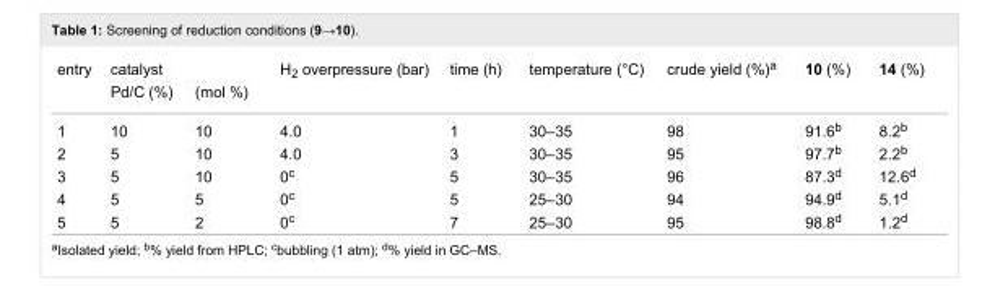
<table><tbody><tr><td rowspan="2">entry</td><td colspan="2">catalyst</td><td rowspan="2">H<sub>2</sub> overpressure (bar)</td><td rowspan="2">time (h)</td><td rowspan="2">temperature (°C)</td><td rowspan="2">crude yield (%)<sup>a</sup></td><td rowspan="2">10 (%)</td><td rowspan="2">14 (%)</td></tr><tr><td>Pd/C (%)</td><td>(mol %)</td></tr><tr><td>1</td><td>10</td><td>10</td><td>4.0</td><td>1</td><td>30–35</td><td>98</td><td>91.6<sup>b</sup></td><td>8.2<sup>b</sup></td></tr><tr><td>2</td><td>5</td><td>10</td><td>4.0</td><td>3</td><td>30–35</td><td>95</td><td>97.7<sup>b</sup></td><td>2.2<sup>b</sup></td></tr><tr><td>3</td><td>5</td><td>10</td><td>0<sup>c</sup></td><td>5</td><td>30–35</td><td>96</td><td>87.3<sup>d</sup></td><td>12.6<sup>d</sup></td></tr><tr><td>4</td><td>5</td><td>5</td><td>0<sup>c</sup></td><td>5</td><td>25–30</td><td>94</td><td>94.9<sup>d</sup></td><td>5.1<sup>d</sup></td></tr><tr><td>5</td><td>5</td><td>2</td><td>0<sup>c</sup></td><td>7</td><td>25–30</td><td>95</td><td>98.8<sup>d</sup></td><td>1.2<sup>d</sup></td></tr></tbody></table>